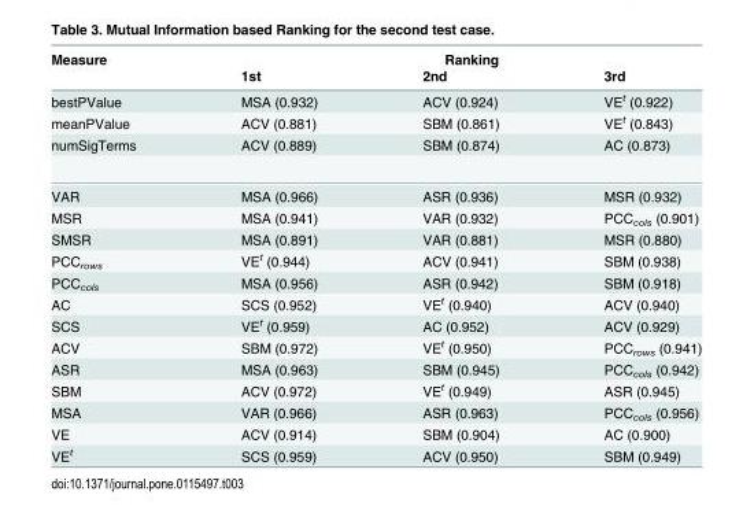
<table><thead><tr><td rowspan="2">Measure</td><td colspan="3">Ranking</td></tr><tr><td>1st</td><td>2nd</td><td>3rd</td></tr></thead><tbody><tr><td>bestPValue</td><td>MSA (0.932)</td><td>ACV (0.924)</td><td>VE<sup>t</sup> (0.922)</td></tr><tr><td>meanPValue</td><td>ACV (0.881)</td><td>SBM (0.861)</td><td>VE<sup>t</sup> (0.843)</td></tr><tr><td>numSigTerms</td><td>ACV (0.889)</td><td>SBM (0.874)</td><td>AC (0.873)</td></tr><tr><td>VAR</td><td>MSA (0.966)</td><td>ASR (0.936)</td><td>MSR (0.932)</td></tr><tr><td>MSR</td><td>MSA (0.941)</td><td>VAR (0.932)</td><td>PCC<sub>cols</sub> (0.901)</td></tr><tr><td>SMSR</td><td>MSA (0.891)</td><td>VAR (0.881)</td><td>MSR (0.880)</td></tr><tr><td>PCC<sub>rows</sub></td><td>VE<sup>t</sup> (0.944)</td><td>ACV (0.941)</td><td>SBM (0.938)</td></tr><tr><td>PCC<sub>cols</sub></td><td>MSA (0.956)</td><td>ASR (0.942)</td><td>SBM (0.918)</td></tr><tr><td>AC</td><td>SCS (0.952)</td><td>VE<sup>t</sup> (0.940)</td><td>ACV (0.940)</td></tr><tr><td>SCS</td><td>VE<sup>t</sup> (0.959)</td><td>AC (0.952)</td><td>ACV (0.929)</td></tr><tr><td>ACV</td><td>SBM (0.972)</td><td>VE<sup>t</sup> (0.950)</td><td>PCC<sub>rows</sub> (0.941)</td></tr><tr><td>ASR</td><td>MSA (0.963)</td><td>SBM (0.945)</td><td>PCC<sub>cols</sub> (0.942)</td></tr><tr><td>SBM</td><td>ACV (0.972)</td><td>VE<sup>t</sup> (0.949)</td><td>ASR (0.945)</td></tr><tr><td>MSA</td><td>VAR (0.966)</td><td>ASR (0.963)</td><td>PCC<sub>cols</sub> (0.956)</td></tr><tr><td>VE</td><td>ACV (0.914)</td><td>SBM (0.904)</td><td>AC (0.900)</td></tr><tr><td>VE<sup>t</sup></td><td>SCS (0.959)</td><td>ACV (0.950)</td><td>SBM (0.949)</td></tr></tbody></table>